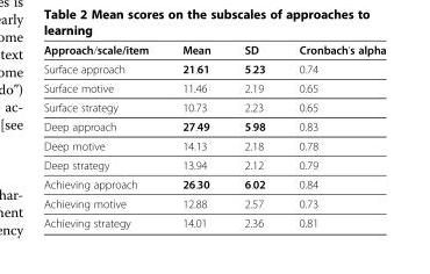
<table><thead><tr><td>Approach/scale/item</td><td>Mean</td><td>SD</td><td>Cronbach’s alpha</td></tr></thead><tbody><tr><td>Surface approach</td><td>21.61</td><td>5.23</td><td>0.74</td></tr><tr><td>Surface motive</td><td>11.46</td><td>2.19</td><td>0.65</td></tr><tr><td>Surface strategy</td><td>10.73</td><td>2.23</td><td>0.65</td></tr><tr><td>Deep approach</td><td>27.49</td><td>5.98</td><td>0.83</td></tr><tr><td>Deep motive</td><td>14.13</td><td>2.18</td><td>0.78</td></tr><tr><td>Deep strategy</td><td>13.94</td><td>2.12</td><td>0.79</td></tr><tr><td>Achieving approach</td><td>26.30</td><td>6.02</td><td>0.84</td></tr><tr><td>Achieving motive</td><td>12.88</td><td>2.57</td><td>0.73</td></tr><tr><td>Achieving strategy</td><td>14.01</td><td>2.36</td><td>0.81</td></tr></tbody></table>